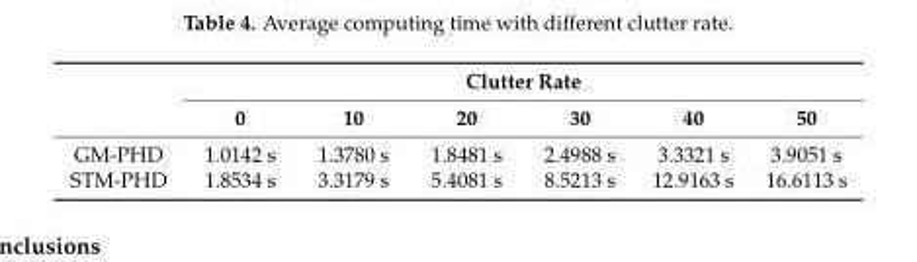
<table><thead><tr><td rowspan="2"></td><td colspan="6">Clutter Rate</td></tr><tr><td>0</td><td>10</td><td>20</td><td>30</td><td>40</td><td>50</td></tr></thead><tbody><tr><td>GM-PHD</td><td>1.0142 s</td><td>1.3780 s</td><td>1.8481 s</td><td>2.4988 s</td><td>3.3321 s</td><td>3.9051 s</td></tr><tr><td>STM-PHD</td><td>1.8534 s</td><td>3.3179 s</td><td>5.4081 s</td><td>8.5213 s</td><td>12.9163 s</td><td>16.6113 s</td></tr></tbody></table>